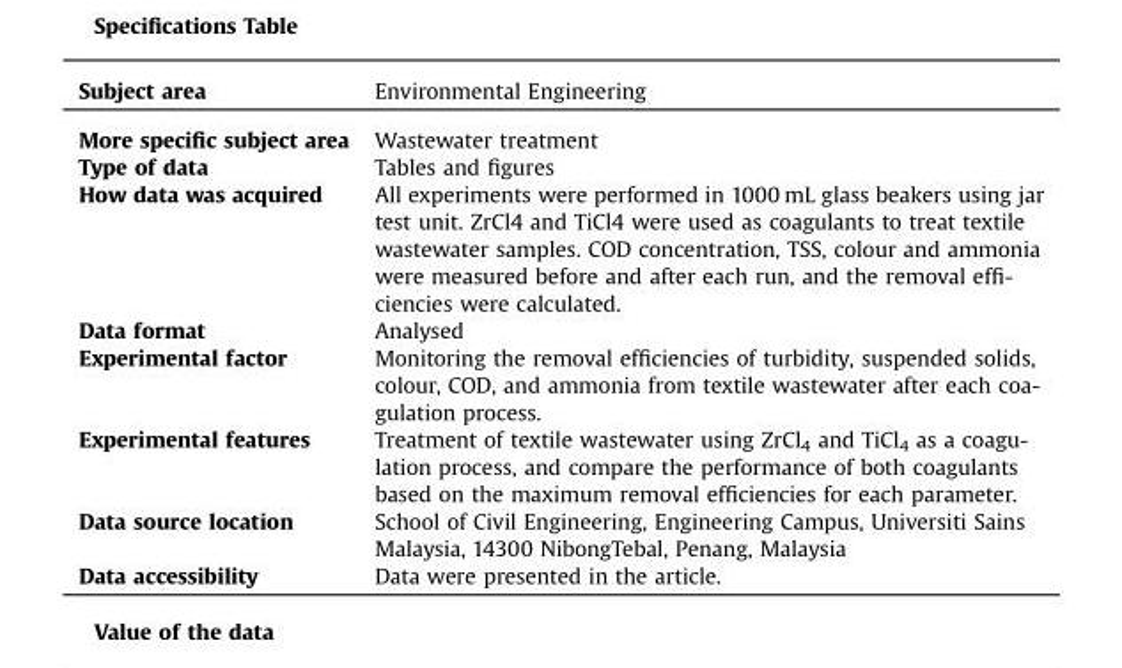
<table><thead><tr><td>Subject area</td><td>Environmental Engineering</td></tr></thead><tbody><tr><td>More specific subject area</td><td>Wastewater treatment</td></tr><tr><td>Type of data</td><td>Tables and figures</td></tr><tr><td>How data was acquired</td><td>All experiments were performed in 1000 mL glass beakers using jar test unit. ZrCl4 and TiCl4 were used as coagulants to treat textile wastewater samples. COD concentration, TSS, colour and ammonia were measured before and after each run, and the removal effi- ciencies were calculated.</td></tr><tr><td>Data format</td><td>Analysed</td></tr><tr><td>Experimental factor</td><td>Monitoring the removal efficiencies of turbidity, suspended solids, colour, COD, and ammonia from textile wastewater after each coa- gulation process.</td></tr><tr><td>Experimental features</td><td>Treatment of textile wastewater using ZrCl4 and TiCl4 as a coagu- lation process, and compare the performance of both coagulants based on the maximum removal efficiencies for each parameter.</td></tr><tr><td>Data source location</td><td>School of Civil Engineering, Engineering Campus, Universiti Sains Malaysia, 14300 NibongTebal, Penang, Malaysia</td></tr><tr><td>Data accessibility</td><td>Data were presented in the article.</td></tr></tbody></table>